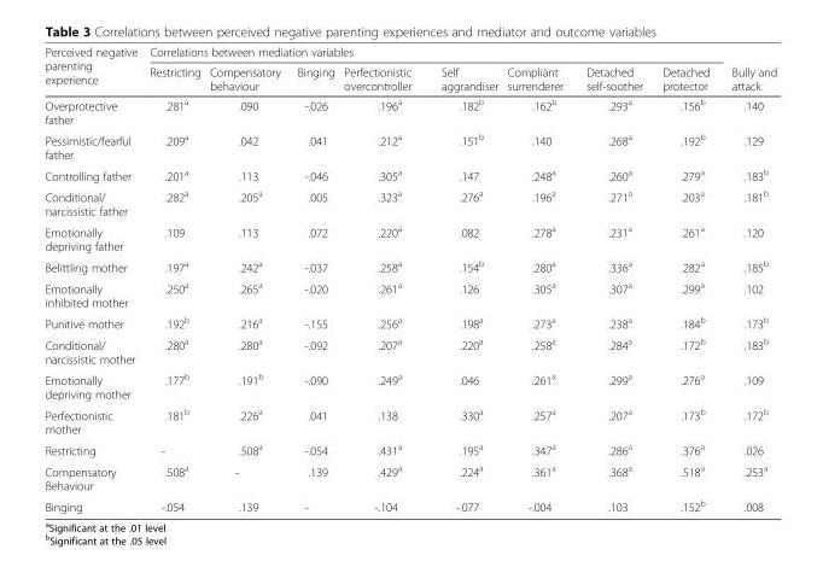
<table><thead><tr><td rowspan="2">Perceived negative parenting experience</td><td colspan="8">Correlations between mediation variables</td><td rowspan="2">Bully and attack</td></tr><tr><td>Restricting</td><td>Compensatory behaviour</td><td>Binging</td><td>Perfectionistic overcontroller</td><td>Self aggrandiser</td><td>Compliant surrenderer</td><td>Detached self-soother</td><td>Detached protector</td></tr></thead><tbody><tr><td>Overprotective father</td><td>.281<sup>a</sup></td><td>.090</td><td>-.026</td><td>.196<sup>a</sup></td><td>.182<sup>b</sup></td><td>.162<sup>b</sup></td><td>.293<sup>a</sup></td><td>.156<sup>b</sup></td><td>.140</td></tr><tr><td>Pessimistic/fearful father</td><td>.209<sup>a</sup></td><td>.042</td><td>.041</td><td>.212<sup>a</sup></td><td>.151<sup>b</sup></td><td>.140</td><td>.268<sup>a</sup></td><td>.192<sup>b</sup></td><td>.129</td></tr><tr><td>Controlling father</td><td>.201<sup>a</sup></td><td>.113</td><td>-.046</td><td>.305<sup>a</sup></td><td>.147</td><td>.248<sup>a</sup></td><td>.260<sup>a</sup></td><td>.279<sup>a</sup></td><td>.183<sup>b</sup></td></tr><tr><td>Conditional/ narcissistic father</td><td>.282<sup>a</sup></td><td>.205<sup>a</sup></td><td>.005</td><td>.323<sup>a</sup></td><td>.276<sup>a</sup></td><td>.196<sup>a</sup></td><td>.271<sup>a</sup></td><td>.203<sup>a</sup></td><td>.181<sup>b</sup></td></tr><tr><td>Emotionally depriving father</td><td>.109</td><td>.113</td><td>.072</td><td>.220<sup>a</sup></td><td>.082</td><td>.278<sup>a</sup></td><td>.231<sup>a</sup></td><td>.261<sup>a</sup></td><td>.120</td></tr><tr><td>Belittling mother</td><td>.197<sup>a</sup></td><td>.242<sup>a</sup></td><td>-.037</td><td>.258<sup>a</sup></td><td>.154<sup>b</sup></td><td>.280<sup>a</sup></td><td>.336<sup>a</sup></td><td>.282<sup>a</sup></td><td>.185<sup>b</sup></td></tr><tr><td>Emotionally inhibited mother</td><td>.250<sup>a</sup></td><td>.265<sup>a</sup></td><td>-.020</td><td>.261<sup>a</sup></td><td>.126</td><td>.305<sup>a</sup></td><td>.307<sup>a</sup></td><td>.299<sup>a</sup></td><td>.102</td></tr><tr><td>Punitive mother</td><td>.192<sup>b</sup></td><td>.216<sup>a</sup></td><td>-.155</td><td>.256<sup>a</sup></td><td>.198<sup>a</sup></td><td>.273<sup>a</sup></td><td>.238<sup>a</sup></td><td>.184<sup>b</sup></td><td>.173<sup>b</sup></td></tr><tr><td>Conditional/ narcissistic mother</td><td>.280<sup>a</sup></td><td>.280<sup>a</sup></td><td>-.092</td><td>.207<sup>a</sup></td><td>.220<sup>a</sup></td><td>.258<sup>a</sup></td><td>.284<sup>a</sup></td><td>.172<sup>b</sup></td><td>.183<sup>b</sup></td></tr><tr><td>Emotionally depriving mother</td><td>.177<sup>b</sup></td><td>.191<sup>b</sup></td><td>-.090</td><td>.249<sup>a</sup></td><td>.046</td><td>.261<sup>a</sup></td><td>.299<sup>a</sup></td><td>.276<sup>a</sup></td><td>.109</td></tr><tr><td>Perfectionistic mother</td><td>.181<sup>b</sup></td><td>.226<sup>a</sup></td><td>.041</td><td>.138</td><td>.330<sup>a</sup></td><td>.257<sup>a</sup></td><td>.207<sup>a</sup></td><td>.173<sup>b</sup></td><td>.172<sup>b</sup></td></tr><tr><td>Restricting</td><td>-</td><td>.508<sup>a</sup></td><td>-.054</td><td>.431<sup>a</sup></td><td>.195<sup>a</sup></td><td>.347<sup>a</sup></td><td>.286<sup>a</sup></td><td>.376<sup>a</sup></td><td>.026</td></tr><tr><td>Compensatory Behaviour</td><td>.508<sup>a</sup></td><td>-</td><td>.139</td><td>.429<sup>a</sup></td><td>.224<sup>a</sup></td><td>.361<sup>a</sup></td><td>.368<sup>a</sup></td><td>.518<sup>a</sup></td><td>.253<sup>a</sup></td></tr><tr><td>Binging</td><td>-.054</td><td>.139</td><td>-</td><td>-.104</td><td>-.077</td><td>-.004</td><td>.103</td><td>.152<sup>b</sup></td><td>.008</td></tr></tbody></table>